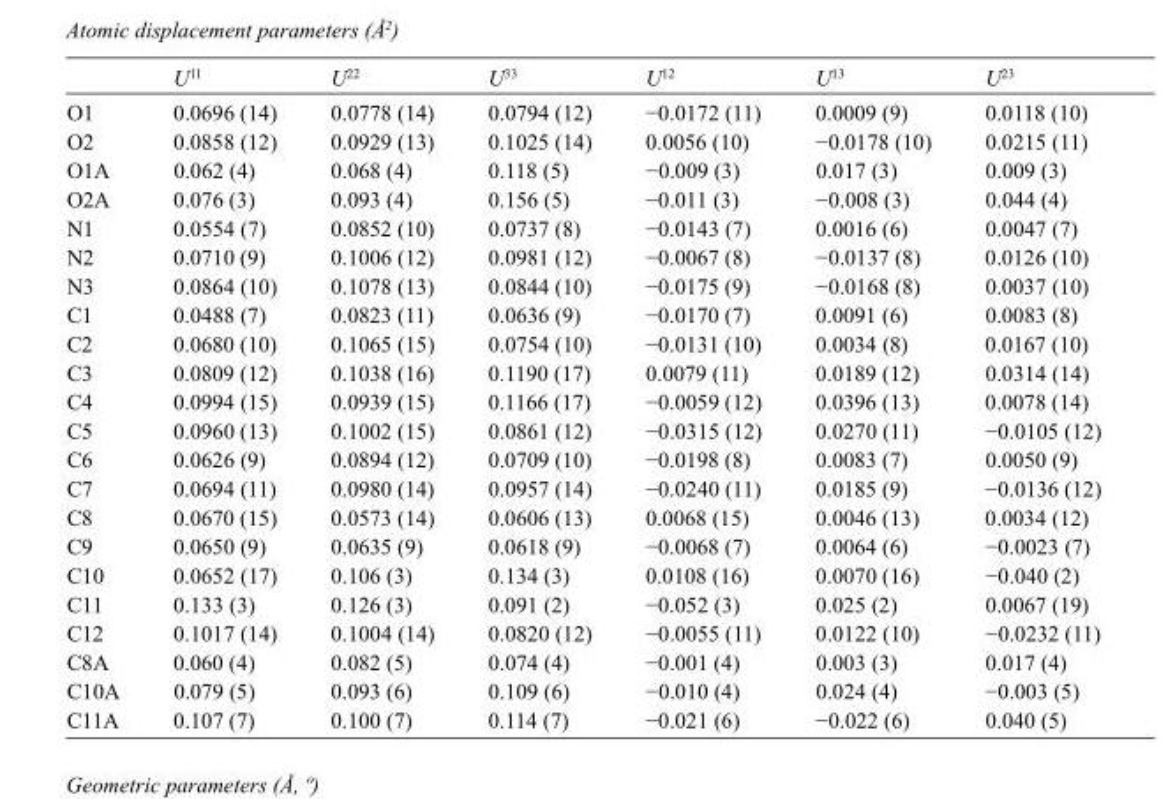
<table><thead><tr><td></td><td>U<sup>11</sup></td><td>U<sup>22</sup></td><td>U<sup>33</sup></td><td>U<sup>12</sup></td><td>U<sup>13</sup></td><td>U<sup>23</sup></td></tr></thead><tbody><tr><td>O1</td><td>0.0696 (14)</td><td>0.0778 (14)</td><td>0.0794 (12)</td><td>−0.0172 (11)</td><td>0.0009 (9)</td><td>0.0118 (10)</td></tr><tr><td>O2</td><td>0.0858 (12)</td><td>0.0929 (13)</td><td>0.1025 (14)</td><td>0.0056 (10)</td><td>−0.0178 (10)</td><td>0.0215 (11)</td></tr><tr><td>O1A</td><td>0.062 (4)</td><td>0.068 (4)</td><td>0.118 (5)</td><td>−0.009 (3)</td><td>0.017 (3)</td><td>0.009 (3)</td></tr><tr><td>O2A</td><td>0.076 (3)</td><td>0.093 (4)</td><td>0.156 (5)</td><td>−0.011 (3)</td><td>−0.008 (3)</td><td>0.044 (4)</td></tr><tr><td>N1</td><td>0.0554 (7)</td><td>0.0852 (10)</td><td>0.0737 (8)</td><td>−0.0143 (7)</td><td>0.0016 (6)</td><td>0.0047 (7)</td></tr><tr><td>N2</td><td>0.0710 (9)</td><td>0.1006 (12)</td><td>0.0981 (12)</td><td>−0.0067 (8)</td><td>−0.0137 (8)</td><td>0.0126 (10)</td></tr><tr><td>N3</td><td>0.0864 (10)</td><td>0.1078 (13)</td><td>0.0844 (10)</td><td>−0.0175 (9)</td><td>−0.0168 (8)</td><td>0.0037 (10)</td></tr><tr><td>C1</td><td>0.0488 (7)</td><td>0.0823 (11)</td><td>0.0636 (9)</td><td>−0.0170 (7)</td><td>0.0091 (6)</td><td>0.0083 (8)</td></tr><tr><td>C2</td><td>0.0680 (10)</td><td>0.1065 (15)</td><td>0.0754 (10)</td><td>−0.0131 (10)</td><td>0.0034 (8)</td><td>0.0167 (10)</td></tr><tr><td>C3</td><td>0.0809 (12)</td><td>0.1038 (16)</td><td>0.1190 (17)</td><td>0.0079 (11)</td><td>0.0189 (12)</td><td>0.0314 (14)</td></tr><tr><td>C4</td><td>0.0994 (15)</td><td>0.0939 (15)</td><td>0.1166 (17)</td><td>−0.0059 (12)</td><td>0.0396 (13)</td><td>0.0078 (14)</td></tr><tr><td>C5</td><td>0.0960 (13)</td><td>0.1002 (15)</td><td>0.0861 (12)</td><td>−0.0315 (12)</td><td>0.0270 (11)</td><td>−0.0105 (12)</td></tr><tr><td>C6</td><td>0.0626 (9)</td><td>0.0894 (12)</td><td>0.0709 (10)</td><td>−0.0198 (8)</td><td>0.0083 (7)</td><td>0.0050 (9)</td></tr><tr><td>C7</td><td>0.0694 (11)</td><td>0.0980 (14)</td><td>0.0957 (14)</td><td>−0.0240 (11)</td><td>0.0185 (9)</td><td>−0.0136 (12)</td></tr><tr><td>C8</td><td>0.0670 (15)</td><td>0.0573 (14)</td><td>0.0606 (13)</td><td>0.0068 (15)</td><td>0.0046 (13)</td><td>0.0034 (12)</td></tr><tr><td>C9</td><td>0.0650 (9)</td><td>0.0635 (9)</td><td>0.0618 (9)</td><td>−0.0068 (7)</td><td>0.0064 (6)</td><td>−0.0023 (7)</td></tr><tr><td>C10</td><td>0.0652 (17)</td><td>0.106 (3)</td><td>0.134 (3)</td><td>0.0108 (16)</td><td>0.0070 (16)</td><td>−0.040 (2)</td></tr><tr><td>C11</td><td>0.133 (3)</td><td>0.126 (3)</td><td>0.091 (2)</td><td>−0.052 (3)</td><td>0.025 (2)</td><td>0.0067 (19)</td></tr><tr><td>C12</td><td>0.1017 (14)</td><td>0.1004 (14)</td><td>0.0820 (12)</td><td>−0.0055 (11)</td><td>0.0122 (10)</td><td>−0.0232 (11)</td></tr><tr><td>C8A</td><td>0.060 (4)</td><td>0.082 (5)</td><td>0.074 (4)</td><td>−0.001 (4)</td><td>0.003 (3)</td><td>0.017 (4)</td></tr><tr><td>C10A</td><td>0.079 (5)</td><td>0.093 (6)</td><td>0.109 (6)</td><td>−0.010 (4)</td><td>0.024 (4)</td><td>−0.003 (5)</td></tr><tr><td>C11A</td><td>0.107 (7)</td><td>0.100 (7)</td><td>0.114 (7)</td><td>−0.021 (6)</td><td>−0.022 (6)</td><td>0.040 (5)</td></tr></tbody></table>